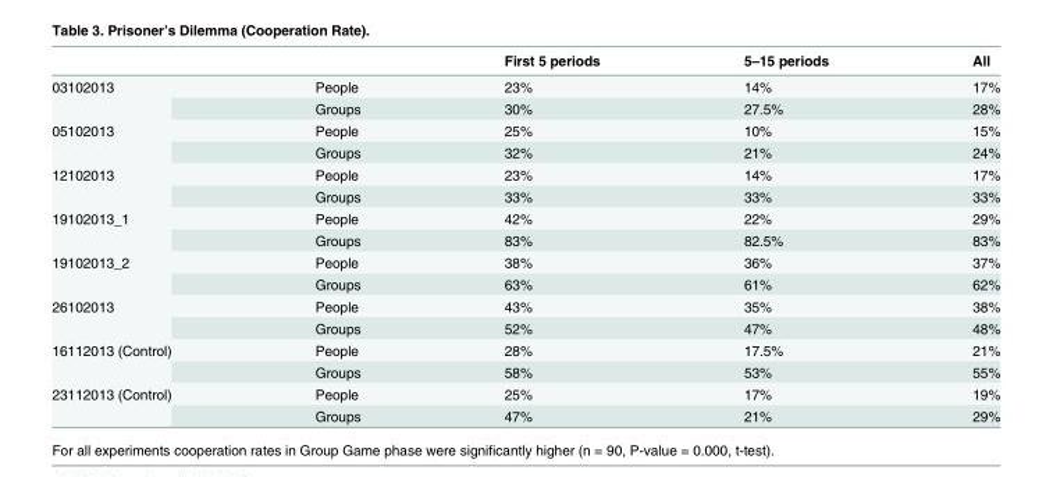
<table><thead><tr><td></td><td></td><td>First 5 periods</td><td>5–15 periods</td><td>All</td></tr></thead><tbody><tr><td rowspan="2">03102013</td><td>People</td><td>23%</td><td>14%</td><td>17%</td></tr><tr><td>Groups</td><td>30%</td><td>27.5%</td><td>28%</td></tr><tr><td rowspan="2">05102013</td><td>People</td><td>25%</td><td>10%</td><td>15%</td></tr><tr><td>Groups</td><td>32%</td><td>21%</td><td>24%</td></tr><tr><td rowspan="2">12102013</td><td>People</td><td>23%</td><td>14%</td><td>17%</td></tr><tr><td>Groups</td><td>33%</td><td>33%</td><td>33%</td></tr><tr><td rowspan="2">19102013_1</td><td>People</td><td>42%</td><td>22%</td><td>29%</td></tr><tr><td>Groups</td><td>83%</td><td>82.5%</td><td>83%</td></tr><tr><td rowspan="2">19102013_2</td><td>People</td><td>38%</td><td>36%</td><td>37%</td></tr><tr><td>Groups</td><td>63%</td><td>61%</td><td>62%</td></tr><tr><td rowspan="2">26102013</td><td>People</td><td>43%</td><td>35%</td><td>38%</td></tr><tr><td>Groups</td><td>52%</td><td>47%</td><td>48%</td></tr><tr><td rowspan="2">16112013 (Control)</td><td>People</td><td>28%</td><td>17.5%</td><td>21%</td></tr><tr><td>Groups</td><td>58%</td><td>53%</td><td>55%</td></tr><tr><td rowspan="2">23112013 (Control)</td><td>People</td><td>25%</td><td>17%</td><td>19%</td></tr><tr><td>Groups</td><td>47%</td><td>21%</td><td>29%</td></tr></tbody></table>